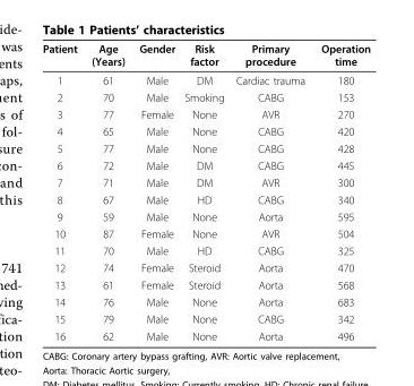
<table><thead><tr><td>Patient</td><td>Age (Years)</td><td>Gender</td><td>Risk factor</td><td>Primary procedure</td><td>Operation time</td></tr></thead><tbody><tr><td>1</td><td>61</td><td>Male</td><td>DM</td><td>Cardiac trauma</td><td>180</td></tr><tr><td>2</td><td>70</td><td>Male</td><td>Smoking</td><td>CABG</td><td>153</td></tr><tr><td>3</td><td>77</td><td>Female</td><td>None</td><td>AVR</td><td>270</td></tr><tr><td>4</td><td>65</td><td>Male</td><td>None</td><td>CABG</td><td>420</td></tr><tr><td>5</td><td>77</td><td>Male</td><td>None</td><td>CABG</td><td>428</td></tr><tr><td>6</td><td>72</td><td>Male</td><td>DM</td><td>CABG</td><td>445</td></tr><tr><td>7</td><td>71</td><td>Male</td><td>DM</td><td>AVR</td><td>300</td></tr><tr><td>8</td><td>67</td><td>Male</td><td>HD</td><td>CABG</td><td>340</td></tr><tr><td>9</td><td>59</td><td>Male</td><td>None</td><td>Aorta</td><td>595</td></tr><tr><td>10</td><td>87</td><td>Female</td><td>None</td><td>AVR</td><td>504</td></tr><tr><td>11</td><td>70</td><td>Male</td><td>HD</td><td>CABG</td><td>325</td></tr><tr><td>12</td><td>74</td><td>Female</td><td>Steroid</td><td>Aorta</td><td>470</td></tr><tr><td>13</td><td>61</td><td>Female</td><td>Steroid</td><td>Aorta</td><td>568</td></tr><tr><td>14</td><td>76</td><td>Male</td><td>None</td><td>Aorta</td><td>683</td></tr><tr><td>15</td><td>79</td><td>Male</td><td>None</td><td>CABG</td><td>342</td></tr><tr><td>16</td><td>62</td><td>Male</td><td>None</td><td>Aorta</td><td>496</td></tr></tbody></table>